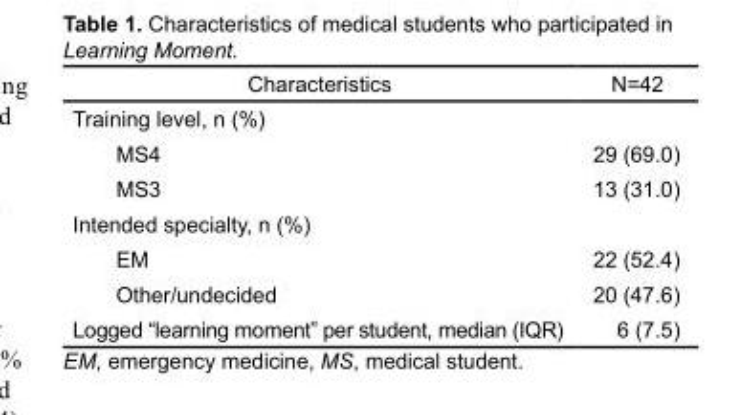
<table><thead><tr><td>Characteristics</td><td>N=42</td></tr></thead><tbody><tr><td colspan="2">Training level, n (%)</td></tr><tr><td>MS4</td><td>29 (69.0)</td></tr><tr><td>MS3</td><td>13 (31.0)</td></tr><tr><td colspan="2">Intended specialty, n (%)</td></tr><tr><td>EM</td><td>22 (52.4)</td></tr><tr><td>Other/undecided</td><td>20 (47.6)</td></tr><tr><td>Logged “learning moment” per student, median (IQR)</td><td>6 (7.5)</td></tr></tbody></table>